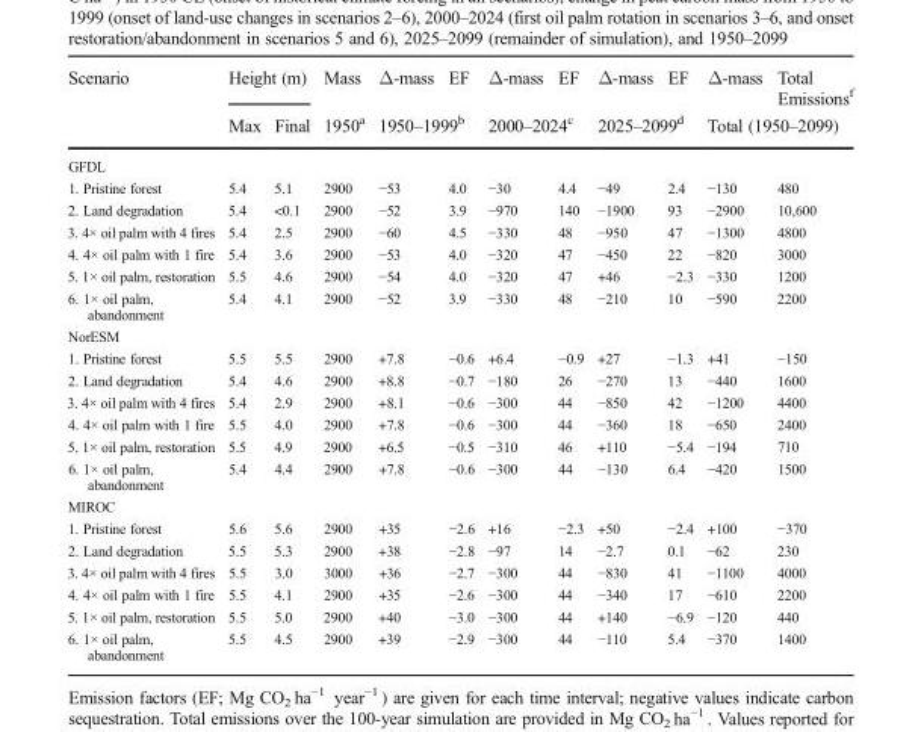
<table><thead><tr><td rowspan="2">Scenario</td><td colspan="2">Height (m)</td><td rowspan="2">Mass 1950<sup>a</sup></td><td>Δ-mass</td><td>EF</td><td>Δ-mass</td><td>EF</td><td>Δ-mass</td><td>EF</td><td>Δ-mass</td><td>Total Emissions<sup>f</sup></td></tr><tr><td>Max</td><td>Final</td><td colspan="2">1950–1999<sup>b</sup></td><td colspan="2">2000–2024<sup>c</sup></td><td colspan="2">2025–2099<sup>d</sup></td><td colspan="2">Total (1950–2099)</td></tr></thead><tbody><tr><td colspan="12">GFDL</td></tr><tr><td>1. Pristine forest</td><td>5.4</td><td>5.1</td><td>2900</td><td>−53</td><td>4.0</td><td>−30</td><td>4.4</td><td>−49</td><td>2.4</td><td>−130</td><td>480</td></tr><tr><td>2. Land degradation</td><td>5.4</td><td>&lt;0.1</td><td>2900</td><td>−52</td><td>3.9</td><td>−970</td><td>140</td><td>−1900</td><td>93</td><td>−2900</td><td>10,600</td></tr><tr><td>3. 4× oil palm with 4 fires</td><td>5.4</td><td>2.5</td><td>2900</td><td>−60</td><td>4.5</td><td>−330</td><td>48</td><td>−950</td><td>47</td><td>−1300</td><td>4800</td></tr><tr><td>4. 4× oil palm with 1 fire</td><td>5.4</td><td>3.6</td><td>2900</td><td>−53</td><td>4.0</td><td>−320</td><td>47</td><td>−450</td><td>22</td><td>−820</td><td>3000</td></tr><tr><td>5. 1× oil palm, restoration</td><td>5.5</td><td>4.6</td><td>2900</td><td>−54</td><td>4.0</td><td>−320</td><td>47</td><td>+46</td><td>−2.3</td><td>−330</td><td>1200</td></tr><tr><td>6. 1× oil palm, abandonment</td><td>5.4</td><td>4.1</td><td>2900</td><td>−52</td><td>3.9</td><td>−330</td><td>48</td><td>−210</td><td>10</td><td>−590</td><td>2200</td></tr><tr><td colspan="12">NorESM</td></tr><tr><td>1. Pristine forest</td><td>5.5</td><td>5.5</td><td>2900</td><td>+7.8</td><td>−0.6</td><td>+6.4</td><td>−0.9</td><td>+27</td><td>−1.3</td><td>+41</td><td>−150</td></tr><tr><td>2. Land degradation</td><td>5.4</td><td>4.6</td><td>2900</td><td>+8.8</td><td>−0.7</td><td>−180</td><td>26</td><td>−270</td><td>13</td><td>−440</td><td>1600</td></tr><tr><td>3. 4× oil palm with 4 fires</td><td>5.4</td><td>2.9</td><td>2900</td><td>+8.1</td><td>−0.6</td><td>−300</td><td>44</td><td>−850</td><td>42</td><td>−1200</td><td>4400</td></tr><tr><td>4. 4× oil palm with 1 fire</td><td>5.5</td><td>4.0</td><td>2900</td><td>+7.8</td><td>−0.6</td><td>−300</td><td>44</td><td>−360</td><td>18</td><td>−650</td><td>2400</td></tr><tr><td>5. 1× oil palm, restoration</td><td>5.5</td><td>4.9</td><td>2900</td><td>+6.5</td><td>−0.5</td><td>−310</td><td>46</td><td>+110</td><td>−5.4</td><td>−194</td><td>710</td></tr><tr><td>6. 1× oil palm, abandonment</td><td>5.4</td><td>4.4</td><td>2900</td><td>+7.8</td><td>−0.6</td><td>−300</td><td>44</td><td>−130</td><td>6.4</td><td>−420</td><td>1500</td></tr><tr><td colspan="12">MIROC</td></tr><tr><td>1. Pristine forest</td><td>5.6</td><td>5.6</td><td>2900</td><td>+35</td><td>−2.6</td><td>+16</td><td>−2.3</td><td>+50</td><td>−2.4</td><td>+100</td><td>−370</td></tr><tr><td>2. Land degradation</td><td>5.5</td><td>5.3</td><td>2900</td><td>+38</td><td>−2.8</td><td>−97</td><td>14</td><td>−2.7</td><td>0.1</td><td>−62</td><td>230</td></tr><tr><td>3. 4× oil palm with 4 fires</td><td>5.5</td><td>3.0</td><td>3000</td><td>+36</td><td>−2.7</td><td>−300</td><td>44</td><td>−830</td><td>41</td><td>−1100</td><td>4000</td></tr><tr><td>4. 4× oil palm with 1 fire</td><td>5.5</td><td>4.1</td><td>2900</td><td>+35</td><td>−2.6</td><td>−300</td><td>44</td><td>−340</td><td>17</td><td>−610</td><td>2200</td></tr><tr><td>5. 1× oil palm, restoration</td><td>5.5</td><td>5.0</td><td>2900</td><td>+40</td><td>−3.0</td><td>−300</td><td>44</td><td>+140</td><td>−6.9</td><td>−120</td><td>440</td></tr><tr><td>6. 1× oil palm, abandonment</td><td>5.5</td><td>4.5</td><td>2900</td><td>+39</td><td>−2.9</td><td>−300</td><td>44</td><td>−110</td><td>5.4</td><td>−370</td><td>1400</td></tr></tbody></table>